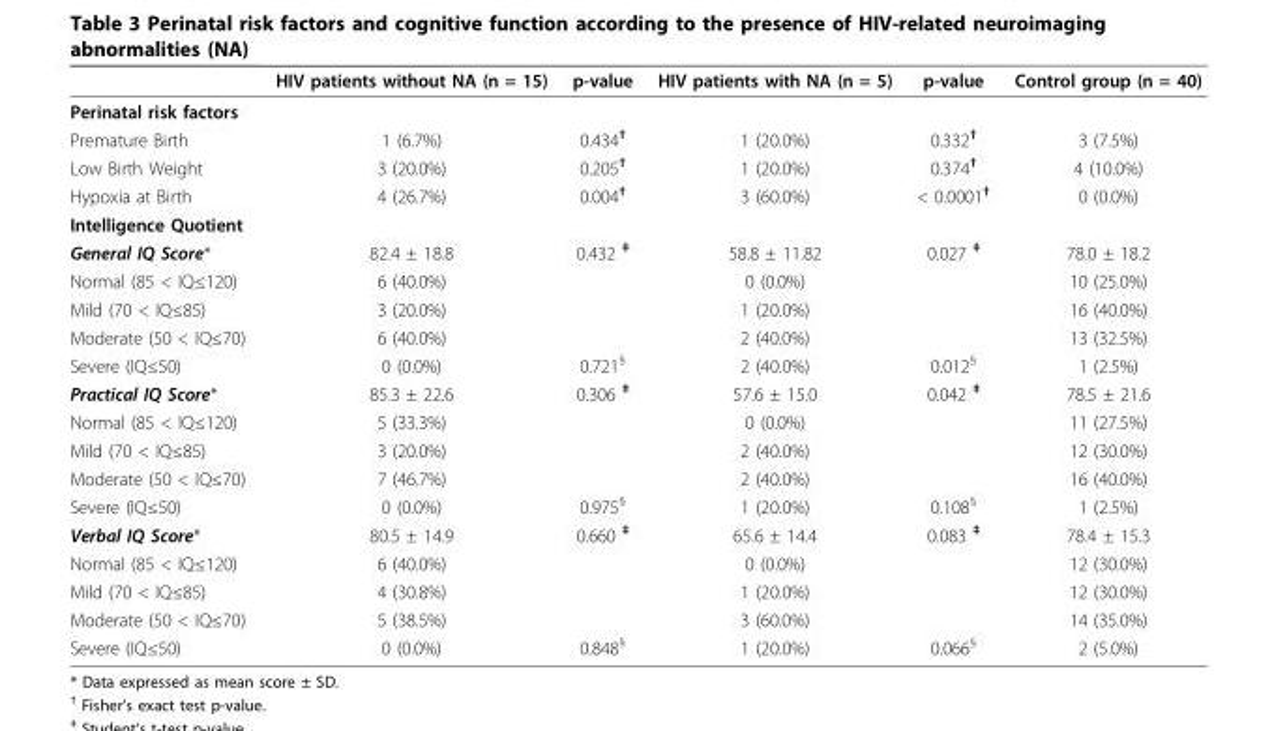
<table><thead><tr><td></td><td>HIV patients without NA (n = 15)</td><td>p-value</td><td>HIV patients with NA (n = 5)</td><td>p-value</td><td>Control group (n = 40)</td></tr></thead><tbody><tr><td colspan="6">Perinatal risk factors</td></tr><tr><td>Premature Birth</td><td>1 (6.7%)</td><td>0.434<sup>†</sup></td><td>1 (20.0%)</td><td>0.332<sup>†</sup></td><td>3 (7.5%)</td></tr><tr><td>Low Birth Weight</td><td>3 (20.0%)</td><td>0.205<sup>†</sup></td><td>1 (20.0%)</td><td>0.374<sup>†</sup></td><td>4 (10.0%)</td></tr><tr><td>Hypoxia at Birth</td><td>4 (26.7%)</td><td>0.004<sup>†</sup></td><td>3 (60.0%)</td><td>&lt; 0.0001<sup>†</sup></td><td>0 (0.0%)</td></tr><tr><td colspan="6">Intelligence Quotient</td></tr><tr><td>General IQ Score*</td><td>82.4 ± 18.8</td><td>0.432 <sup>‡</sup></td><td>58.8 ± 11.82</td><td>0.027 <sup>‡</sup></td><td>78.0 ± 18.2</td></tr><tr><td>Normal (85 &lt; IQ≤120)</td><td>6 (40.0%)</td><td></td><td>0 (0.0%)</td><td></td><td>10 (25.0%)</td></tr><tr><td>Mild (70 &lt; IQ≤85)</td><td>3 (20.0%)</td><td></td><td>1 (20.0%)</td><td></td><td>16 (40.0%)</td></tr><tr><td>Moderate (50 &lt; IQ≤70)</td><td>6 (40.0%)</td><td></td><td>2 (40.0%)</td><td></td><td>13 (32.5%)</td></tr><tr><td>Severe (IQ≤50)</td><td>0 (0.0%)</td><td>0.721<sup>§</sup></td><td>2 (40.0%)</td><td>0.012<sup>§</sup></td><td>1 (2.5%)</td></tr><tr><td>Practical IQ Score*</td><td>85.3 ± 22.6</td><td>0.306 <sup>‡</sup></td><td>57.6 ± 15.0</td><td>0.042 <sup>‡</sup></td><td>78.5 ± 21.6</td></tr><tr><td>Normal (85 &lt; IQ≤120)</td><td>5 (33.3%)</td><td></td><td>0 (0.0%)</td><td></td><td>11 (27.5%)</td></tr><tr><td>Mild (70 &lt; IQ≤85)</td><td>3 (20.0%)</td><td></td><td>2 (40.0%)</td><td></td><td>12 (30.0%)</td></tr><tr><td>Moderate (50 &lt; IQ≤70)</td><td>7 (46.7%)</td><td></td><td>2 (40.0%)</td><td></td><td>16 (40.0%)</td></tr><tr><td>Severe (IQ≤50)</td><td>0 (0.0%)</td><td>0.975<sup>§</sup></td><td>1 (20.0%)</td><td>0.108<sup>§</sup></td><td>1 (2.5%)</td></tr><tr><td>Verbal IQ Score*</td><td>80.5 ± 14.9</td><td>0.660 <sup>‡</sup></td><td>65.6 ± 14.4</td><td>0.083 <sup>‡</sup></td><td>78.4 ± 15.3</td></tr><tr><td>Normal (85 &lt; IQ≤120)</td><td>6 (40.0%)</td><td></td><td>0 (0.0%)</td><td></td><td>12 (30.0%)</td></tr><tr><td>Mild (70 &lt; IQ≤85)</td><td>4 (30.8%)</td><td></td><td>1 (20.0%)</td><td></td><td>12 (30.0%)</td></tr><tr><td>Moderate (50 &lt; IQ≤70)</td><td>5 (38.5%)</td><td></td><td>3 (60.0%)</td><td></td><td>14 (35.0%)</td></tr><tr><td>Severe (IQ≤50)</td><td>0 (0.0%)</td><td>0.848<sup>§</sup></td><td>1 (20.0%)</td><td>0.066<sup>§</sup></td><td>2 (5.0%)</td></tr></tbody></table>